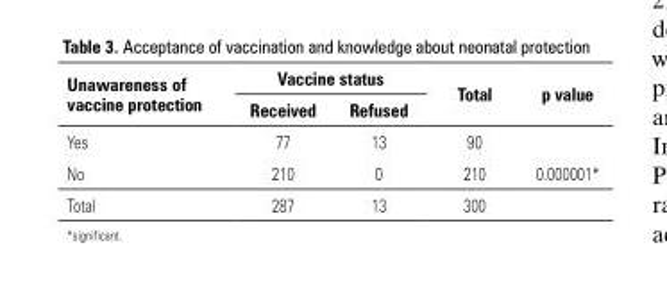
<table><thead><tr><td rowspan="2">Unawareness of vaccine protection</td><td colspan="2">Vaccine status</td><td rowspan="2">Total</td><td rowspan="2">p value</td></tr><tr><td>Received</td><td>Refused</td></tr></thead><tbody><tr><td>Yes</td><td>77</td><td>13</td><td>90</td><td></td></tr><tr><td>No</td><td>210</td><td>0</td><td>210</td><td>0.000001*</td></tr><tr><td>Total</td><td>287</td><td>13</td><td>300</td><td></td></tr></tbody></table>